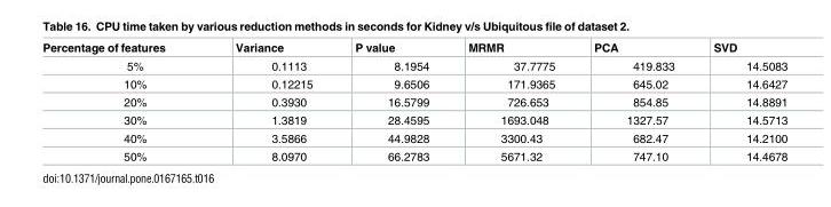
<table><thead><tr><td>Percentage of features</td><td>Variance</td><td>P value</td><td>MRMR</td><td>PCA</td><td>SVD</td></tr></thead><tbody><tr><td>5%</td><td>0.1113</td><td>8.1954</td><td>37.7775</td><td>419.833</td><td>14.5083</td></tr><tr><td>10%</td><td>0.12215</td><td>9.6506</td><td>171.9365</td><td>645.02</td><td>14.6427</td></tr><tr><td>20%</td><td>0.3930</td><td>16.5799</td><td>726.653</td><td>854.85</td><td>14.8891</td></tr><tr><td>30%</td><td>1.3819</td><td>28.4595</td><td>1693.048</td><td>1327.57</td><td>14.5713</td></tr><tr><td>40%</td><td>3.5866</td><td>44.9828</td><td>3300.43</td><td>682.47</td><td>14.2100</td></tr><tr><td>50%</td><td>8.0970</td><td>66.2783</td><td>5671.32</td><td>747.10</td><td>14.4678</td></tr></tbody></table>